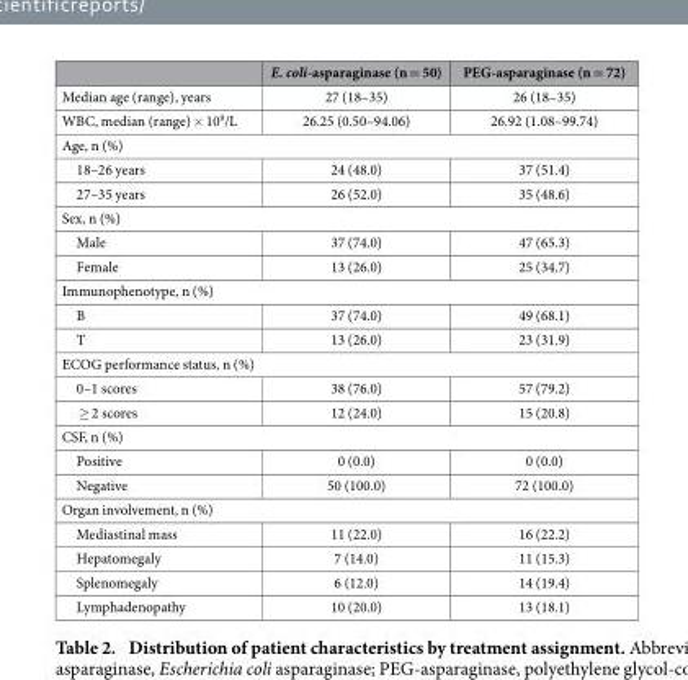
<table><thead><tr><td></td><td>E. coli-asparaginase (n = 50)</td><td>PEG-asparaginase (n = 72)</td></tr></thead><tbody><tr><td>Median age (range), years</td><td>27 (18–35)</td><td>26 (18–35)</td></tr><tr><td>WBC, median (range) × 10<sup>9</sup>/L</td><td>26.25 (0.50–94.06)</td><td>26.92 (1.08–99.74)</td></tr><tr><td colspan="3">Age, n (%)</td></tr><tr><td>18–26 years</td><td>24 (48.0)</td><td>37 (51.4)</td></tr><tr><td>27–35 years</td><td>26 (52.0)</td><td>35 (48.6)</td></tr><tr><td colspan="3">Sex, n (%)</td></tr><tr><td>Male</td><td>37 (74.0)</td><td>47 (65.3)</td></tr><tr><td>Female</td><td>13 (26.0)</td><td>25 (34.7)</td></tr><tr><td colspan="3">Immunophenotype, n (%)</td></tr><tr><td>B</td><td>37 (74.0)</td><td>49 (68.1)</td></tr><tr><td>T</td><td>13 (26.0)</td><td>23 (31.9)</td></tr><tr><td colspan="3">ECOG performance status, n (%)</td></tr><tr><td>0–1 scores</td><td>38 (76.0)</td><td>57 (79.2)</td></tr><tr><td>≥ 2 scores</td><td>12 (24.0)</td><td>15 (20.8)</td></tr><tr><td colspan="3">CSF, n (%)</td></tr><tr><td>Positive</td><td>0 (0.0)</td><td>0 (0.0)</td></tr><tr><td>Negative</td><td>50 (100.0)</td><td>72 (100.0)</td></tr><tr><td colspan="3">Organ involvement, n (%)</td></tr><tr><td>Mediastinal mass</td><td>11 (22.0)</td><td>16 (22.2)</td></tr><tr><td>Hepatomegaly</td><td>7 (14.0)</td><td>11 (15.3)</td></tr><tr><td>Splenomegaly</td><td>6 (12.0)</td><td>14 (19.4)</td></tr><tr><td>Lymphadenopathy</td><td>10 (20.0)</td><td>13 (18.1)</td></tr></tbody></table>